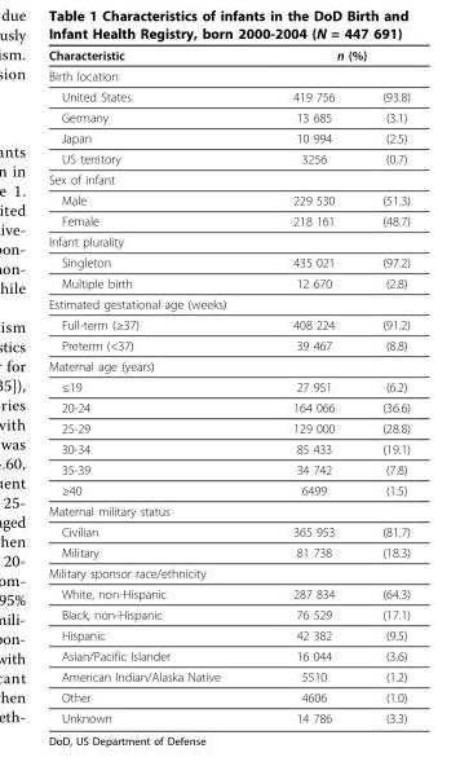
<table><thead><tr><td rowspan="2">Characteristic Birth location</td><td colspan="2">n (%)</td></tr><tr><td></td><td></td></tr></thead><tbody><tr><td>United States</td><td>419 756</td><td>(93.8)</td></tr><tr><td>Germany</td><td>13 685</td><td>(3.1)</td></tr><tr><td>Japan</td><td>10 994</td><td>(2.5)</td></tr><tr><td>US territory</td><td>3256</td><td>(0.7)</td></tr><tr><td colspan="3">Sex of infant</td></tr><tr><td>Male</td><td>229 530</td><td>(51.3)</td></tr><tr><td>Female</td><td>218 161</td><td>(48.7)</td></tr><tr><td colspan="3">Infant plurality</td></tr><tr><td>Singleton</td><td>435 021</td><td>(97.2)</td></tr><tr><td>Multiple birth</td><td>12 670</td><td>(2.8)</td></tr><tr><td colspan="3">Estimated gestational age (weeks)</td></tr><tr><td>Full-term (≥37)</td><td>408 224</td><td>(91.2)</td></tr><tr><td>Preterm (&lt;37)</td><td>39 467</td><td>(8.8)</td></tr><tr><td colspan="3">Maternal age (years)</td></tr><tr><td>≤19</td><td>27 951</td><td>(6.2)</td></tr><tr><td>20-24</td><td>164 066</td><td>(36.6)</td></tr><tr><td>25-29</td><td>129 000</td><td>(28.8)</td></tr><tr><td>30-34</td><td>85 433</td><td>(19.1)</td></tr><tr><td>35-39</td><td>34 742</td><td>(7.8)</td></tr><tr><td>≥40</td><td>6499</td><td>(1.5)</td></tr><tr><td colspan="3">Maternal military status</td></tr><tr><td>Civilian</td><td>365 953</td><td>(81.7)</td></tr><tr><td>Military</td><td>81 738</td><td>(18.3)</td></tr><tr><td colspan="3">Military sponsor race/ethnicity</td></tr><tr><td>White, non-Hispanic</td><td>287 834</td><td>(64.3)</td></tr><tr><td>Black, non-Hispanic</td><td>76 529</td><td>(17.1)</td></tr><tr><td>Hispanic</td><td>42 382</td><td>(9.5)</td></tr><tr><td>Asian/Pacific Islander</td><td>16 044</td><td>(3.6)</td></tr><tr><td>American Indian/Alaska Native</td><td>5510</td><td>(1.2)</td></tr><tr><td>Other</td><td>4606</td><td>(1.0)</td></tr><tr><td>Unknown</td><td>14 786</td><td>(3.3)</td></tr></tbody></table>